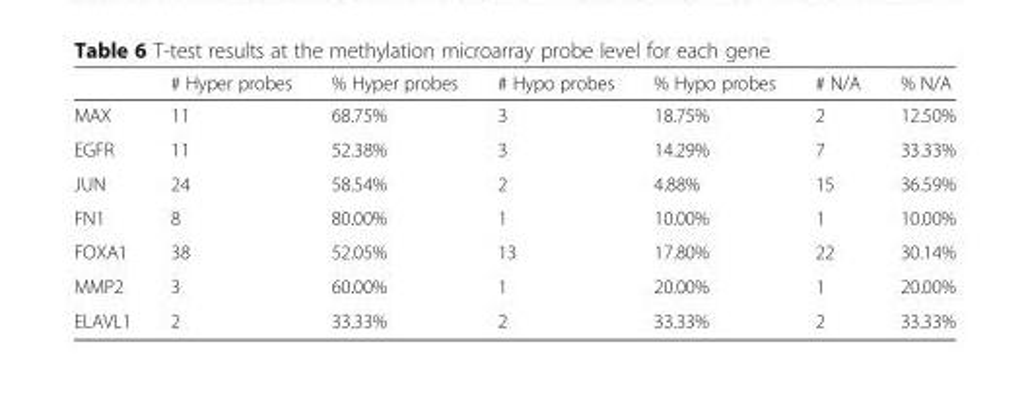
<table><thead><tr><td></td><td># Hyper probes</td><td>% Hyper probes</td><td># Hypo probes</td><td>% Hypo probes</td><td># N/A</td><td>% N/A</td></tr></thead><tbody><tr><td>MAX</td><td>11</td><td>68.75%</td><td>3</td><td>18.75%</td><td>2</td><td>12.50%</td></tr><tr><td>EGFR</td><td>11</td><td>52.38%</td><td>3</td><td>14.29%</td><td>7</td><td>33.33%</td></tr><tr><td>JUN</td><td>24</td><td>58.54%</td><td>2</td><td>4.88%</td><td>15</td><td>36.59%</td></tr><tr><td>FN1</td><td>8</td><td>80.00%</td><td>1</td><td>10.00%</td><td>1</td><td>10.00%</td></tr><tr><td>FOXA1</td><td>38</td><td>52.05%</td><td>13</td><td>17.80%</td><td>22</td><td>30.14%</td></tr><tr><td>MMP2</td><td>3</td><td>60.00%</td><td>1</td><td>20.00%</td><td>1</td><td>20.00%</td></tr><tr><td>ELAVL1</td><td>2</td><td>33.33%</td><td>2</td><td>33.33%</td><td>2</td><td>33.33%</td></tr></tbody></table>